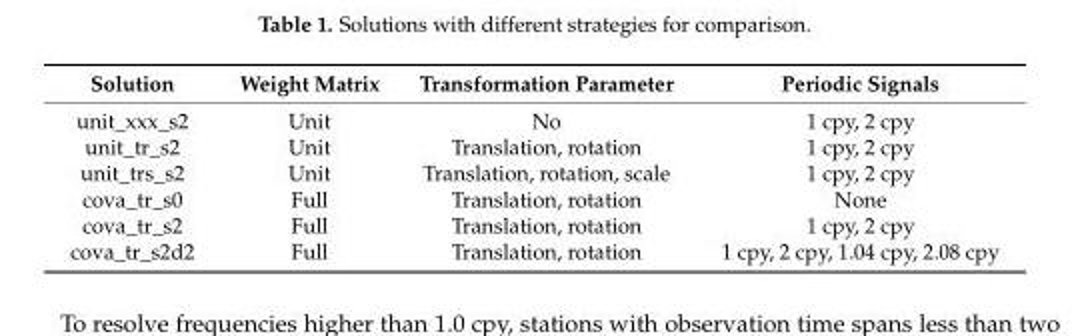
<table><thead><tr><td>Solution</td><td>Weight Matrix</td><td>Transformation Parameter</td><td>Periodic Signals</td></tr></thead><tbody><tr><td>unit_xxx_s2</td><td>Unit</td><td>No</td><td>1 cpy, 2 cpy</td></tr><tr><td>unit_tr_s2</td><td>Unit</td><td>Translation, rotation</td><td>1 cpy, 2 cpy</td></tr><tr><td>unit_trs_s2</td><td>Unit</td><td>Translation, rotation, scale</td><td>1 cpy, 2 cpy</td></tr><tr><td>cova_tr_s0</td><td>Full</td><td>Translation, rotation</td><td>None</td></tr><tr><td>cova_tr_s2</td><td>Full</td><td>Translation, rotation</td><td>1 cpy, 2 cpy</td></tr><tr><td>cova_tr_s2d2</td><td>Full</td><td>Translation, rotation</td><td>1 cpy, 2 cpy, 1.04 cpy, 2.08 cpy</td></tr></tbody></table>